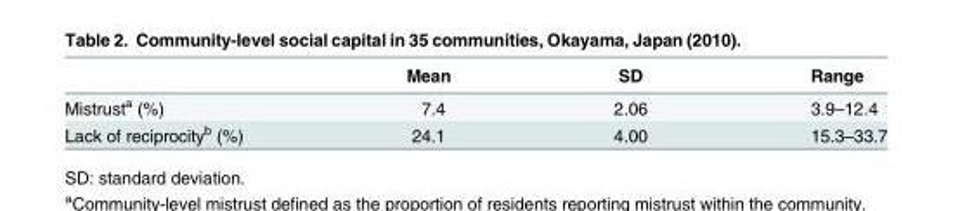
<table><thead><tr><td></td><td>Mean</td><td>SD</td><td>Range</td></tr></thead><tbody><tr><td>Mistrust<sup>a</sup> (%)</td><td>7.4</td><td>2.06</td><td>3.9–12.4</td></tr><tr><td>Lack of reciprocity<sup>b</sup> (%)</td><td>24.1</td><td>4.00</td><td>15.3–33.7</td></tr></tbody></table>